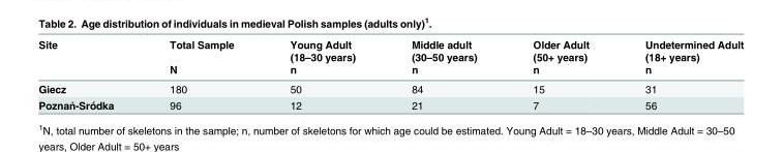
<table><thead><tr><td rowspan="3">Site</td><td rowspan="3">Total Sample N</td><td rowspan="3">Young Adult (18–30 years) n</td><td rowspan="3">Middle adult (30–50 years) n</td><td rowspan="3">Older Adult (50+ years) n</td><td rowspan="3">Undetermined Adult (18+ years) n</td></tr><tr></tr><tr></tr></thead><tbody><tr><td>Giecz</td><td>180</td><td>50</td><td>84</td><td>15</td><td>31</td></tr><tr><td>Poznań-Sródka</td><td>96</td><td>12</td><td>21</td><td>7</td><td>56</td></tr></tbody></table>